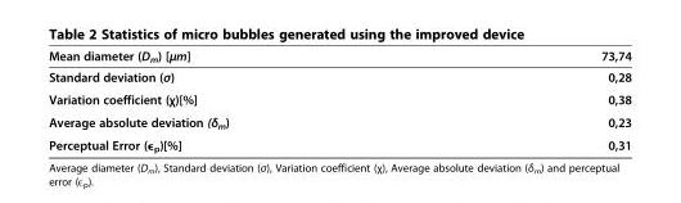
<table><thead><tr><td>Mean diameter (D<sub>m</sub>) [μm]</td><td>73,74</td></tr></thead><tbody><tr><td>Standard deviation (σ)</td><td>0,28</td></tr><tr><td>Variation coefficient (χ)[%]</td><td>0,38</td></tr><tr><td>Average absolute deviation (δ<sub>m</sub>)</td><td>0,23</td></tr><tr><td>Perceptual Error (ε<sub>p</sub>)[%]</td><td>0,31</td></tr></tbody></table>